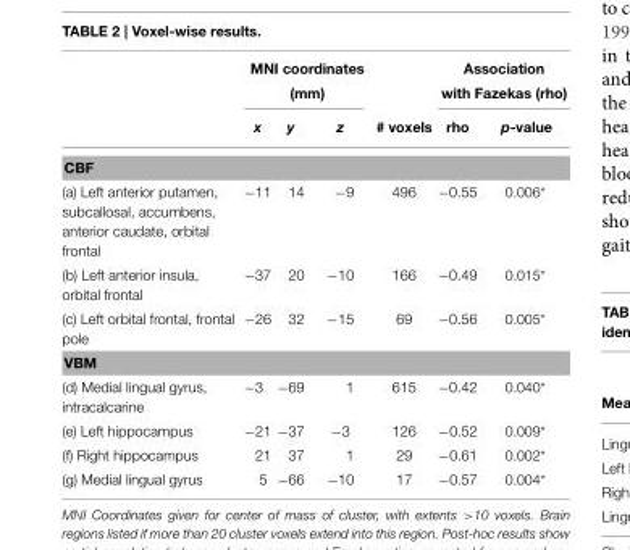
<table><thead><tr><td rowspan="2"></td><td colspan="3">MNI coordinates (mm)</td><td rowspan="2"># voxels</td><td colspan="2">Association with Fazekas (rho)</td></tr><tr><td>x</td><td>y</td><td>z</td><td>rho</td><td>p-value</td></tr></thead><tbody><tr><td colspan="7">CBF</td></tr><tr><td>(a) Left anterior putamen, subcallosal, accumbens, anterior caudate, orbital frontal</td><td>−11</td><td>14</td><td>−9</td><td>496</td><td>−0.55</td><td>0.006*</td></tr><tr><td>(b) Left anterior insula, orbital frontal</td><td>−37</td><td>20</td><td>−10</td><td>166</td><td>−0.49</td><td>0.015*</td></tr><tr><td>(c) Left orbital frontal, frontal pole</td><td>−26</td><td>32</td><td>−15</td><td>69</td><td>−0.56</td><td>0.005*</td></tr><tr><td colspan="7">VBM</td></tr><tr><td>(d) Medial lingual gyrus, intracalcarine</td><td>−3</td><td>−69</td><td>1</td><td>615</td><td>−0.42</td><td>0.040*</td></tr><tr><td>(e) Left hippocampus</td><td>−21</td><td>−37</td><td>−3</td><td>126</td><td>−0.52</td><td>0.009*</td></tr><tr><td>(f) Right hippocampus</td><td>21</td><td>37</td><td>1</td><td>29</td><td>−0.61</td><td>0.002*</td></tr><tr><td>(g) Medial lingual gyrus</td><td>5</td><td>−66</td><td>−10</td><td>17</td><td>−0.57</td><td>0.004*</td></tr></tbody></table>